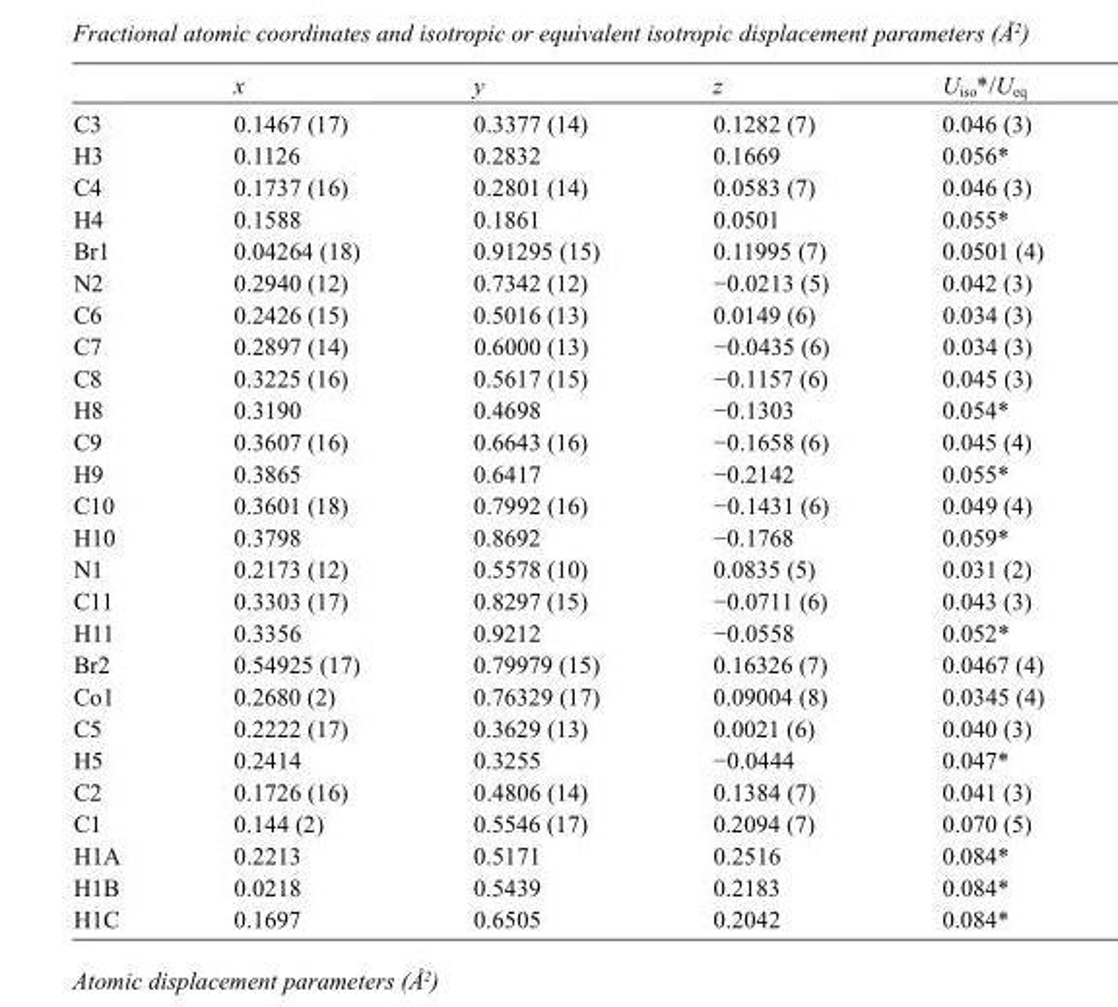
<table><thead><tr><td></td><td>x</td><td>y</td><td>z</td><td>U<sub>iso</sub>*/U<sub>eq</sub></td></tr></thead><tbody><tr><td>C3</td><td>0.1467 (17)</td><td>0.3377 (14)</td><td>0.1282 (7)</td><td>0.046 (3)</td></tr><tr><td>H3</td><td>0.1126</td><td>0.2832</td><td>0.1669</td><td>0.056*</td></tr><tr><td>C4</td><td>0.1737 (16)</td><td>0.2801 (14)</td><td>0.0583 (7)</td><td>0.046 (3)</td></tr><tr><td>H4</td><td>0.1588</td><td>0.1861</td><td>0.0501</td><td>0.055*</td></tr><tr><td>Br1</td><td>0.04264 (18)</td><td>0.91295 (15)</td><td>0.11995 (7)</td><td>0.0501 (4)</td></tr><tr><td>N2</td><td>0.2940 (12)</td><td>0.7342 (12)</td><td>−0.0213 (5)</td><td>0.042 (3)</td></tr><tr><td>C6</td><td>0.2426 (15)</td><td>0.5016 (13)</td><td>0.0149 (6)</td><td>0.034 (3)</td></tr><tr><td>C7</td><td>0.2897 (14)</td><td>0.6000 (13)</td><td>−0.0435 (6)</td><td>0.034 (3)</td></tr><tr><td>C8</td><td>0.3225 (16)</td><td>0.5617 (15)</td><td>−0.1157 (6)</td><td>0.045 (3)</td></tr><tr><td>H8</td><td>0.3190</td><td>0.4698</td><td>−0.1303</td><td>0.054*</td></tr><tr><td>C9</td><td>0.3607 (16)</td><td>0.6643 (16)</td><td>−0.1658 (6)</td><td>0.045 (4)</td></tr><tr><td>H9</td><td>0.3865</td><td>0.6417</td><td>−0.2142</td><td>0.055*</td></tr><tr><td>C10</td><td>0.3601 (18)</td><td>0.7992 (16)</td><td>−0.1431 (6)</td><td>0.049 (4)</td></tr><tr><td>H10</td><td>0.3798</td><td>0.8692</td><td>−0.1768</td><td>0.059*</td></tr><tr><td>N1</td><td>0.2173 (12)</td><td>0.5578 (10)</td><td>0.0835 (5)</td><td>0.031 (2)</td></tr><tr><td>C11</td><td>0.3303 (17)</td><td>0.8297 (15)</td><td>−0.0711 (6)</td><td>0.043 (3)</td></tr><tr><td>H11</td><td>0.3356</td><td>0.9212</td><td>−0.0558</td><td>0.052*</td></tr><tr><td>Br2</td><td>0.54925 (17)</td><td>0.79979 (15)</td><td>0.16326 (7)</td><td>0.0467 (4)</td></tr><tr><td>Co1</td><td>0.2680 (2)</td><td>0.76329 (17)</td><td>0.09004 (8)</td><td>0.0345 (4)</td></tr><tr><td>C5</td><td>0.2222 (17)</td><td>0.3629 (13)</td><td>0.0021 (6)</td><td>0.040 (3)</td></tr><tr><td>H5</td><td>0.2414</td><td>0.3255</td><td>−0.0444</td><td>0.047*</td></tr><tr><td>C2</td><td>0.1726 (16)</td><td>0.4806 (14)</td><td>0.1384 (7)</td><td>0.041 (3)</td></tr><tr><td>C1</td><td>0.144 (2)</td><td>0.5546 (17)</td><td>0.2094 (7)</td><td>0.070 (5)</td></tr><tr><td>H1A</td><td>0.2213</td><td>0.5171</td><td>0.2516</td><td>0.084*</td></tr><tr><td>H1B</td><td>0.0218</td><td>0.5439</td><td>0.2183</td><td>0.084*</td></tr><tr><td>H1C</td><td>0.1697</td><td>0.6505</td><td>0.2042</td><td>0.084*</td></tr></tbody></table>